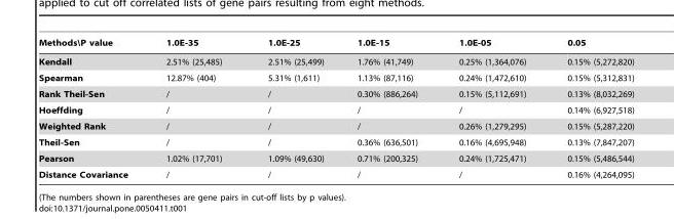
<table><thead><tr><td>Methods\P value</td><td>1.0E-35</td><td>1.0E-25</td><td>1.0E-15</td><td>1.0E-05</td><td>0.05</td></tr></thead><tbody><tr><td>Kendall</td><td>2.51% (25,485)</td><td>2.51% (25,499)</td><td>1.76% (41,749)</td><td>0.25% (1,364,076)</td><td>0.15% (5,272,820)</td></tr><tr><td>Spearman</td><td>12.87% (404)</td><td>5.31% (1,611)</td><td>1.13% (87,116)</td><td>0.24% (1,472,610)</td><td>0.15% (5,312,831)</td></tr><tr><td>Rank Theil-Sen</td><td>/</td><td>/</td><td>0.30% (886,264)</td><td>0.15% (5,112,691)</td><td>0.13% (8,032,269)</td></tr><tr><td>Hoeffding</td><td>/</td><td>/</td><td>/</td><td>/</td><td>0.14% (6,927,518)</td></tr><tr><td>Weighted Rank</td><td>/</td><td>/</td><td>/</td><td>0.26% (1,279,295)</td><td>0.15% (5,287,220)</td></tr><tr><td>Theil-Sen</td><td>/</td><td>/</td><td>0.36% (636,501)</td><td>0.16% (4,695,948)</td><td>0.13% (7,847,207)</td></tr><tr><td>Pearson</td><td>1.02% (17,701)</td><td>1.09% (49,630)</td><td>0.71% (200,325)</td><td>0.24% (1,725,471)</td><td>0.15% (5,486,544)</td></tr><tr><td>Distance Covariance</td><td>/</td><td>/</td><td>/</td><td>/</td><td>0.16% (4,264,095)</td></tr></tbody></table>